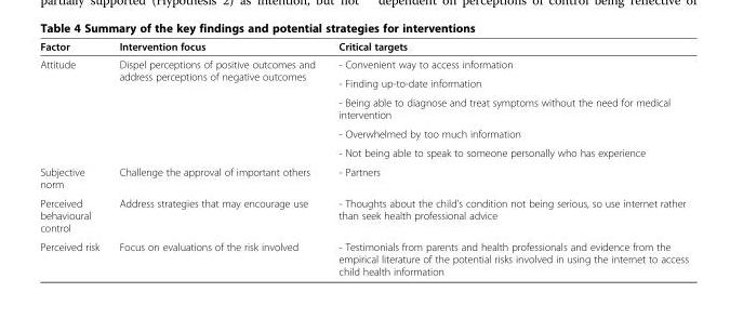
<table><thead><tr><td>Factor</td><td>Intervention focus</td><td>Critical targets</td></tr></thead><tbody><tr><td rowspan="5">Attitude</td><td rowspan="5">Dispel perceptions of positive outcomes and address perceptions of negative outcomes</td><td>- Convenient way to access information</td></tr><tr><td>- Finding up-to-date information</td></tr><tr><td>- Being able to diagnose and treat symptoms without the need for medical intervention</td></tr><tr><td>- Overwhelmed by too much information</td></tr><tr><td>- Not being able to speak to someone personally who has experience</td></tr><tr><td>Subjective norm</td><td>Challenge the approval of important others</td><td>- Partners</td></tr><tr><td>Perceived behavioural control</td><td>Address strategies that may encourage use</td><td>- Thoughts about the child’s condition not being serious, so use internet rather than seek health professional advice</td></tr><tr><td>Perceived risk</td><td>Focus on evaluations of the risk involved</td><td>- Testimonials from parents and health professionals and evidence from the empirical literature of the potential risks involved in using the internet to access child health information</td></tr></tbody></table>